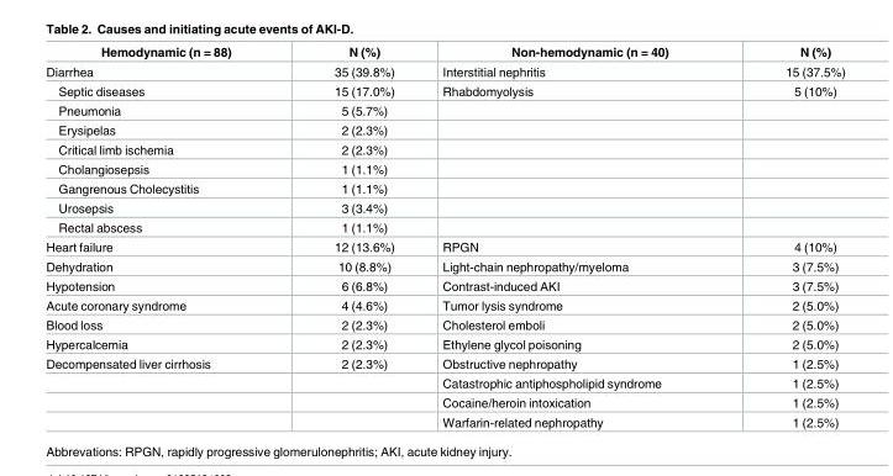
<table><thead><tr><td>Hemodynamic (n = 88)</td><td>N (%)</td><td>Non-hemodynamic (n = 40)</td><td>N (%)</td></tr></thead><tbody><tr><td>Diarrhea</td><td>35 (39.8%)</td><td>Interstitial nephritis</td><td>15 (37.5%)</td></tr><tr><td>Septic diseases</td><td>15 (17.0%)</td><td>Rhabdomyolysis</td><td>5 (10%)</td></tr><tr><td>Pneumonia</td><td>5 (5.7%)</td><td></td><td></td></tr><tr><td>Erysipelas</td><td>2 (2.3%)</td><td></td><td></td></tr><tr><td>Critical limb ischemia</td><td>2 (2.3%)</td><td></td><td></td></tr><tr><td>Cholangiosepsis</td><td>1 (1.1%)</td><td></td><td></td></tr><tr><td>Gangrenous Cholecystitis</td><td>1 (1.1%)</td><td></td><td></td></tr><tr><td>Urosepsis</td><td>3 (3.4%)</td><td></td><td></td></tr><tr><td>Rectal abscess</td><td>1 (1.1%)</td><td></td><td></td></tr><tr><td>Heart failure</td><td>12 (13.6%)</td><td>RPGN</td><td>4 (10%)</td></tr><tr><td>Dehydration</td><td>10 (8.8%)</td><td>Light-chain nephropathy/myeloma</td><td>3 (7.5%)</td></tr><tr><td>Hypotension</td><td>6 (6.8%)</td><td>Contrast-induced AKI</td><td>3 (7.5%)</td></tr><tr><td>Acute coronary syndrome</td><td>4 (4.6%)</td><td>Tumor lysis syndrome</td><td>2 (5.0%)</td></tr><tr><td>Blood loss</td><td>2 (2.3%)</td><td>Cholesterol emboli</td><td>2 (5.0%)</td></tr><tr><td>Hypercalcemia</td><td>2 (2.3%)</td><td>Ethylene glycol poisoning</td><td>2 (5.0%)</td></tr><tr><td rowspan="4">Decompensated liver cirrhosis</td><td>2 (2.3%)</td><td>Obstructive nephropathy</td><td>1 (2.5%)</td></tr><tr><td></td><td>Catastrophic antiphospholipid syndrome</td><td>1 (2.5%)</td></tr><tr><td></td><td>Cocaine/heroin intoxication</td><td>1 (2.5%)</td></tr><tr><td></td><td>Warfarin-related nephropathy</td><td>1 (2.5%)</td></tr></tbody></table>